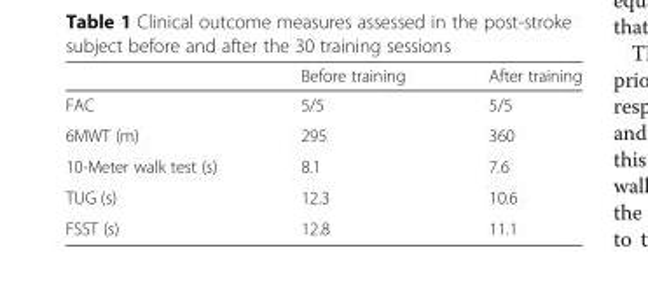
<table><thead><tr><td></td><td>Before training</td><td>After training</td></tr></thead><tbody><tr><td>FAC</td><td>5/5</td><td>5/5</td></tr><tr><td>6MWT (m)</td><td>295</td><td>360</td></tr><tr><td>10-Meter walk test (s)</td><td>8.1</td><td>7.6</td></tr><tr><td>TUG (s)</td><td>12.3</td><td>10.6</td></tr><tr><td>FSST (s)</td><td>12.8</td><td>11.1</td></tr></tbody></table>